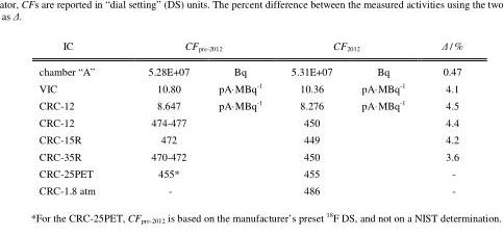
<table><thead><tr><td rowspan="2">IC chamber “A”</td><td colspan="2">CF<sub>pre-2012</sub></td><td colspan="2">CF<sub>2012</sub></td><td rowspan="2">Δ / % 0.47</td></tr><tr><td>5.28E+07</td><td>Bq</td><td>5.31E+07</td><td>Bq</td></tr></thead><tbody><tr><td>VIC</td><td>10.80</td><td>pA·MBq<sup>-1</sup></td><td>10.36</td><td>pA·MBq<sup>-1</sup></td><td>4.1</td></tr><tr><td>CRC-12</td><td>8.647</td><td>pA·MBq<sup>-1</sup></td><td>8.276</td><td>pA·MBq<sup>-1</sup></td><td>4.5</td></tr><tr><td>CRC-12</td><td>474-477</td><td></td><td>450</td><td></td><td>4.4</td></tr><tr><td>CRC-15R</td><td>472</td><td></td><td>449</td><td></td><td>4.2</td></tr><tr><td>CRC-35R</td><td>470-472</td><td></td><td>450</td><td></td><td>3.6</td></tr><tr><td>CRC-25PET</td><td>455*</td><td></td><td>455</td><td></td><td>-</td></tr><tr><td>CRC-1.8 atm</td><td>-</td><td></td><td>486</td><td></td><td>-</td></tr></tbody></table>